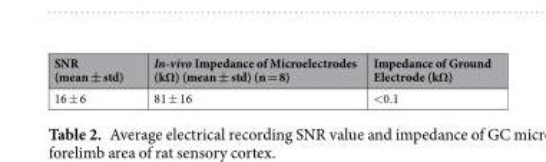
<table><thead><tr><td>SNR (mean ± std)</td><td>In-vivo Impedance of Microelectrodes (kΩ) (mean ± std) (n = 8)</td><td>Impedance of Ground Electrode (kΩ)</td></tr></thead><tbody><tr><td>16 ± 6</td><td>81 ± 16</td><td>&lt;0.1</td></tr></tbody></table>